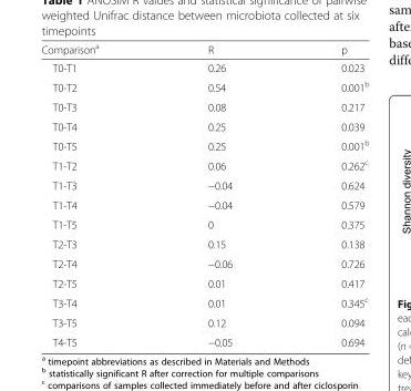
<table><thead><tr><td>Comparison<sup>a</sup></td><td>R</td><td>p</td></tr></thead><tbody><tr><td>T0-T1</td><td>0.26</td><td>0.023</td></tr><tr><td>T0-T2</td><td>0.54</td><td>0.001<sup>b</sup></td></tr><tr><td>T0-T3</td><td>0.08</td><td>0.217</td></tr><tr><td>T0-T4</td><td>0.25</td><td>0.039</td></tr><tr><td>T0-T5</td><td>0.25</td><td>0.001<sup>b</sup></td></tr><tr><td>T1-T2</td><td>0.06</td><td>0.262<sup>c</sup></td></tr><tr><td>T1-T3</td><td>−0.04</td><td>0.624</td></tr><tr><td>T1-T4</td><td>−0.04</td><td>0.579</td></tr><tr><td>T1-T5</td><td>0</td><td>0.375</td></tr><tr><td>T2-T3</td><td>0.15</td><td>0.138</td></tr><tr><td>T2-T4</td><td>−0.06</td><td>0.726</td></tr><tr><td>T2-T5</td><td>0.01</td><td>0.417</td></tr><tr><td>T3-T4</td><td>0.01</td><td>0.345<sup>c</sup></td></tr><tr><td>T3-T5</td><td>0.12</td><td>0.094</td></tr><tr><td>T4-T5</td><td>−0.05</td><td>0.694</td></tr></tbody></table>